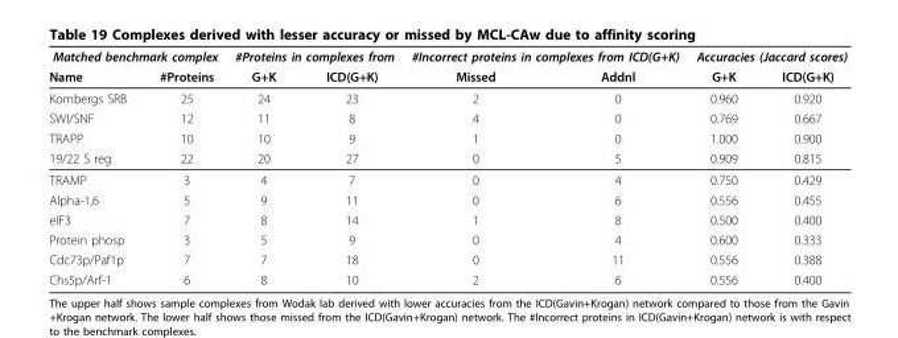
<table><thead><tr><td colspan="2">Matched benchmark complex</td><td colspan="2">#Proteins in complexes from</td><td colspan="2">#Incorrect proteins in complexes from ICD(G+K)</td><td colspan="2">Accuracies (Jaccard scores)</td></tr><tr><td>Name</td><td>#Proteins</td><td>G+K</td><td>ICD(G+K)</td><td>Missed</td><td>Addnl</td><td>G+K</td><td>ICD(G+K)</td></tr></thead><tbody><tr><td>Kornbergs SRB</td><td>25</td><td>24</td><td>23</td><td>2</td><td>0</td><td>0.960</td><td>0.920</td></tr><tr><td>SWI/SNF</td><td>12</td><td>11</td><td>8</td><td>4</td><td>0</td><td>0.769</td><td>0.667</td></tr><tr><td>TRAPP</td><td>10</td><td>10</td><td>9</td><td>1</td><td>0</td><td>1.000</td><td>0.900</td></tr><tr><td>19/22 S reg</td><td>22</td><td>20</td><td>27</td><td>0</td><td>5</td><td>0.909</td><td>0.815</td></tr><tr><td>TRAMP</td><td>3</td><td>4</td><td>7</td><td>0</td><td>4</td><td>0.750</td><td>0.429</td></tr><tr><td>Alpha-1,6</td><td>5</td><td>9</td><td>11</td><td>0</td><td>6</td><td>0.556</td><td>0.455</td></tr><tr><td>eIF3</td><td>7</td><td>8</td><td>14</td><td>1</td><td>8</td><td>0.500</td><td>0.400</td></tr><tr><td>Protein phosp</td><td>3</td><td>5</td><td>9</td><td>0</td><td>4</td><td>0.600</td><td>0.333</td></tr><tr><td>Cdc73p/Paf1p</td><td>7</td><td>7</td><td>18</td><td>0</td><td>11</td><td>0.556</td><td>0.388</td></tr><tr><td>Chs5p/Arf-1</td><td>6</td><td>8</td><td>10</td><td>2</td><td>6</td><td>0.556</td><td>0.400</td></tr></tbody></table>